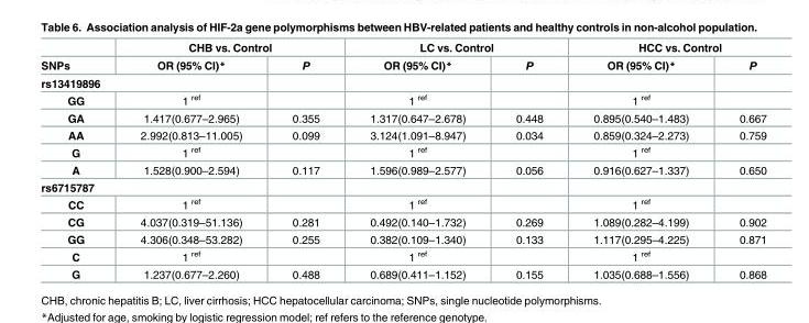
<table><thead><tr><td rowspan="2">SNPs</td><td colspan="2">CHB vs. Control</td><td colspan="2">LC vs. Control</td><td colspan="2">HCC vs. Control</td></tr><tr><td>OR (95% CI)*</td><td>P</td><td>OR (95% CI)*</td><td>P</td><td>OR (95% CI)*</td><td>P</td></tr></thead><tbody><tr><td colspan="7">rs13419896</td></tr><tr><td>GG</td><td>1 <sup>ref</sup></td><td></td><td>1 <sup>ref</sup></td><td></td><td>1 <sup>ref</sup></td><td></td></tr><tr><td>GA</td><td>1.417(0.677–2.965)</td><td>0.355</td><td>1.317(0.647–2.678)</td><td>0.448</td><td>0.895(0.540–1.483)</td><td>0.667</td></tr><tr><td>AA</td><td>2.992(0.813–11.005)</td><td>0.099</td><td>3.124(1.091–8.947)</td><td>0.034</td><td>0.859(0.324–2.273)</td><td>0.759</td></tr><tr><td>G</td><td>1 <sup>ref</sup></td><td></td><td>1 <sup>ref</sup></td><td></td><td>1 <sup>ref</sup></td><td></td></tr><tr><td>A</td><td>1.528(0.900–2.594)</td><td>0.117</td><td>1.596(0.989–2.577)</td><td>0.056</td><td>0.916(0.627–1.337)</td><td>0.650</td></tr><tr><td colspan="7">rs6715787</td></tr><tr><td>CC</td><td>1 <sup>ref</sup></td><td></td><td>1 <sup>ref</sup></td><td></td><td>1 <sup>ref</sup></td><td></td></tr><tr><td>CG</td><td>4.037(0.319–51.136)</td><td>0.281</td><td>0.492(0.140–1.732)</td><td>0.269</td><td>1.089(0.282–4.199)</td><td>0.902</td></tr><tr><td>GG</td><td>4.306(0.348–53.282)</td><td>0.255</td><td>0.382(0.109–1.340)</td><td>0.133</td><td>1.117(0.295–4.225)</td><td>0.871</td></tr><tr><td>C</td><td>1 <sup>ref</sup></td><td></td><td>1 <sup>ref</sup></td><td></td><td>1 <sup>ref</sup></td><td></td></tr><tr><td>G</td><td>1.237(0.677–2.260)</td><td>0.488</td><td>0.689(0.411–1.152)</td><td>0.155</td><td>1.035(0.688–1.556)</td><td>0.868</td></tr></tbody></table>